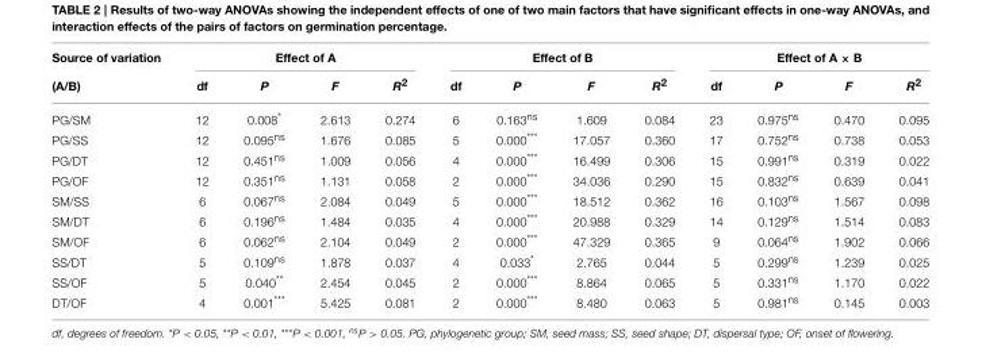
<table><thead><tr><td rowspan="2">Source of variation (A/B)</td><td colspan="4">Effect of A</td><td colspan="4">Effect of B</td><td colspan="4">Effect of A × B</td></tr><tr><td>df</td><td>P</td><td>F</td><td>R<sup>2</sup></td><td>df</td><td>P</td><td>F</td><td>R<sup>2</sup></td><td>df</td><td>P</td><td>F</td><td>R<sup>2</sup></td></tr></thead><tbody><tr><td>PG/SM</td><td>12</td><td>0.008*</td><td>2.613</td><td>0.274</td><td>6</td><td>0.163<sup>ns</sup></td><td>1.609</td><td>0.084</td><td>23</td><td>0.975<sup>ns</sup></td><td>0.470</td><td>0.095</td></tr><tr><td>PG/SS</td><td>12</td><td>0.095<sup>ns</sup></td><td>1.676</td><td>0.085</td><td>5</td><td>0.000***</td><td>17.057</td><td>0.360</td><td>17</td><td>0.752<sup>ns</sup></td><td>0.738</td><td>0.053</td></tr><tr><td>PG/DT</td><td>12</td><td>0.451<sup>ns</sup></td><td>1.009</td><td>0.056</td><td>4</td><td>0.000***</td><td>16.499</td><td>0.306</td><td>15</td><td>0.991<sup>ns</sup></td><td>0.319</td><td>0.022</td></tr><tr><td>PG/OF</td><td>12</td><td>0.351<sup>ns</sup></td><td>1.131</td><td>0.058</td><td>2</td><td>0.000***</td><td>34.036</td><td>0.290</td><td>15</td><td>0.832<sup>ns</sup></td><td>0.639</td><td>0.041</td></tr><tr><td>SM/SS</td><td>6</td><td>0.067<sup>ns</sup></td><td>2.084</td><td>0.049</td><td>5</td><td>0.000***</td><td>18.512</td><td>0.362</td><td>16</td><td>0.103<sup>ns</sup></td><td>1.567</td><td>0.098</td></tr><tr><td>SM/DT</td><td>6</td><td>0.196<sup>ns</sup></td><td>1.484</td><td>0.035</td><td>4</td><td>0.000***</td><td>20.988</td><td>0.329</td><td>14</td><td>0.129<sup>ns</sup></td><td>1.514</td><td>0.083</td></tr><tr><td>SM/OF</td><td>6</td><td>0.062<sup>ns</sup></td><td>2.104</td><td>0.049</td><td>2</td><td>0.000***</td><td>47.329</td><td>0.365</td><td>9</td><td>0.064<sup>ns</sup></td><td>1.902</td><td>0.066</td></tr><tr><td>SS/DT</td><td>5</td><td>0.109<sup>ns</sup></td><td>1.878</td><td>0.037</td><td>4</td><td>0.033*</td><td>2.765</td><td>0.044</td><td>5</td><td>0.299<sup>ns</sup></td><td>1.239</td><td>0.025</td></tr><tr><td>SS/OF</td><td>5</td><td>0.040**</td><td>2.454</td><td>0.045</td><td>2</td><td>0.000***</td><td>8.864</td><td>0.065</td><td>5</td><td>0.331<sup>ns</sup></td><td>1.170</td><td>0.022</td></tr><tr><td>DT/OF</td><td>4</td><td>0.001***</td><td>5.425</td><td>0.081</td><td>2</td><td>0.000***</td><td>8.480</td><td>0.063</td><td>5</td><td>0.981<sup>ns</sup></td><td>0.145</td><td>0.003</td></tr></tbody></table>